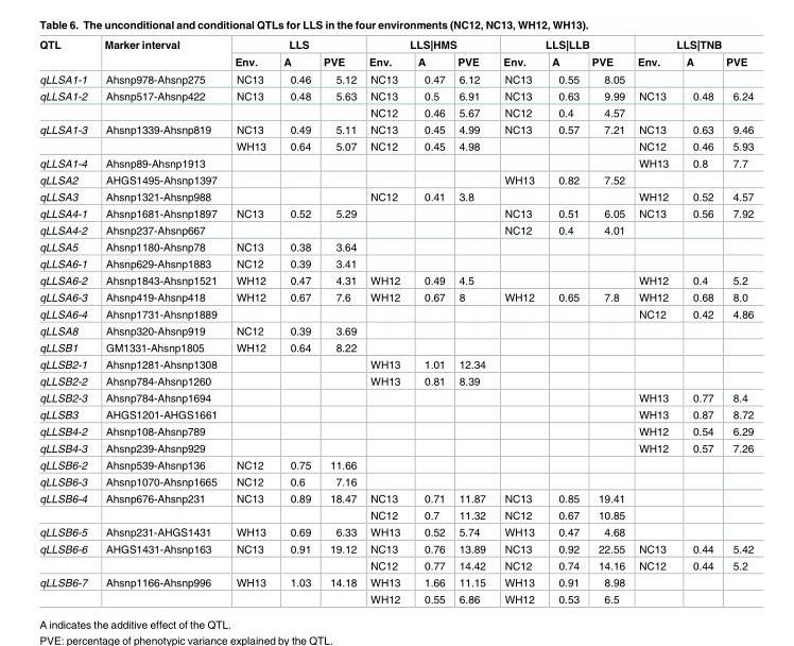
<table><thead><tr><td rowspan="2">QTL</td><td rowspan="2">Marker interval</td><td colspan="3">LLS</td><td colspan="3">LLS|HMS</td><td colspan="3">LLS|LLB</td><td colspan="3">LLS|TNB</td></tr><tr><td>Env.</td><td>A</td><td>PVE</td><td>Env.</td><td>A</td><td>PVE</td><td>Env.</td><td>A</td><td>PVE</td><td>Env.</td><td>A</td><td>PVE</td></tr></thead><tbody><tr><td>qLLSA1-1</td><td>Ahsnp978-Ahsnp275</td><td>NC13</td><td>0.46</td><td>5.12</td><td>NC13</td><td>0.47</td><td>6.12</td><td>NC13</td><td>0.55</td><td>8.05</td><td></td><td></td><td></td></tr><tr><td rowspan="2">qLLSA1-2</td><td>Ahsnp517-Ahsnp422</td><td>NC13</td><td>0.48</td><td>5.63</td><td>NC13</td><td>0.5</td><td>6.91</td><td>NC13</td><td>0.63</td><td>9.99</td><td>NC13</td><td>0.48</td><td>6.24</td></tr><tr><td></td><td></td><td></td><td></td><td>NC12</td><td>0.46</td><td>5.67</td><td>NC12</td><td>0.4</td><td>4.57</td><td></td><td></td><td></td></tr><tr><td rowspan="2">qLLSA1-3</td><td>Ahsnp1339-Ahsnp819</td><td>NC13</td><td>0.49</td><td>5.11</td><td>NC13</td><td>0.45</td><td>4.99</td><td>NC13</td><td>0.57</td><td>7.21</td><td>NC13</td><td>0.63</td><td>9.46</td></tr><tr><td></td><td>WH13</td><td>0.64</td><td>5.07</td><td>NC12</td><td>0.45</td><td>4.98</td><td></td><td></td><td></td><td>NC12</td><td>0.46</td><td>5.93</td></tr><tr><td>qLLSA1-4</td><td>Ahsnp89-Ahsnp1913</td><td></td><td></td><td></td><td></td><td></td><td></td><td></td><td></td><td></td><td>WH13</td><td>0.8</td><td>7.7</td></tr><tr><td>qLLSA2</td><td>AHGS1495-Ahsnp1397</td><td></td><td></td><td></td><td></td><td></td><td></td><td>WH13</td><td>0.82</td><td>7.52</td><td></td><td></td><td></td></tr><tr><td>qLLSA3</td><td>Ahsnp1321-Ahsnp988</td><td></td><td></td><td></td><td>NC12</td><td>0.41</td><td>3.8</td><td></td><td></td><td></td><td>WH12</td><td>0.52</td><td>4.57</td></tr><tr><td>qLLSA4-1</td><td>Ahsnp1681-Ahsnp1897</td><td>NC13</td><td>0.52</td><td>5.29</td><td></td><td></td><td></td><td>NC13</td><td>0.51</td><td>6.05</td><td>NC13</td><td>0.56</td><td>7.92</td></tr><tr><td>qLLSA4-2</td><td>Ahsnp237-Ahsnp667</td><td></td><td></td><td></td><td></td><td></td><td></td><td>NC12</td><td>0.4</td><td>4.01</td><td></td><td></td><td></td></tr><tr><td>qLLSA5</td><td>Ahsnp1180-Ahsnp78</td><td>NC13</td><td>0.38</td><td>3.64</td><td></td><td></td><td></td><td></td><td></td><td></td><td></td><td></td><td></td></tr><tr><td>qLLSA6-1</td><td>Ahsnp629-Ahsnp1883</td><td>NC12</td><td>0.39</td><td>3.41</td><td></td><td></td><td></td><td></td><td></td><td></td><td></td><td></td><td></td></tr><tr><td>qLLSA6-2</td><td>Ahsnp1843-Ahsnp1521</td><td>WH12</td><td>0.47</td><td>4.31</td><td>WH12</td><td>0.49</td><td>4.5</td><td></td><td></td><td></td><td>WH12</td><td>0.4</td><td>5.2</td></tr><tr><td>qLLSA6-3</td><td>Ahsnp419-Ahsnp418</td><td>WH12</td><td>0.67</td><td>7.6</td><td>WH12</td><td>0.67</td><td>8</td><td>WH12</td><td>0.65</td><td>7.8</td><td>WH12</td><td>0.68</td><td>8.0</td></tr><tr><td>qLLSA6-4</td><td>Ahsnp1731-Ahsnp1889</td><td></td><td></td><td></td><td></td><td></td><td></td><td></td><td></td><td></td><td>NC12</td><td>0.42</td><td>4.86</td></tr><tr><td>qLLSA8</td><td>Ahsnp320-Ahsnp919</td><td>NC12</td><td>0.39</td><td>3.69</td><td></td><td></td><td></td><td></td><td></td><td></td><td></td><td></td><td></td></tr><tr><td>qLLSB1</td><td>GM1331-Ahsnp1805</td><td>WH12</td><td>0.64</td><td>8.22</td><td></td><td></td><td></td><td></td><td></td><td></td><td></td><td></td><td></td></tr><tr><td>qLLSB2-1</td><td>Ahsnp1281-Ahsnp1308</td><td></td><td></td><td></td><td>WH13</td><td>1.01</td><td>12.34</td><td></td><td></td><td></td><td></td><td></td><td></td></tr><tr><td>qLLSB2-2</td><td>Ahsnp784-Ahsnp1260</td><td></td><td></td><td></td><td>WH13</td><td>0.81</td><td>8.39</td><td></td><td></td><td></td><td></td><td></td><td></td></tr><tr><td>qLLSB2-3</td><td>Ahsnp784-Ahsnp1694</td><td></td><td></td><td></td><td></td><td></td><td></td><td></td><td></td><td></td><td>WH13</td><td>0.77</td><td>8.4</td></tr><tr><td>qLLSB3</td><td>AHGS1201-AHGS1661</td><td></td><td></td><td></td><td></td><td></td><td></td><td></td><td></td><td></td><td>WH13</td><td>0.87</td><td>8.72</td></tr><tr><td>qLLSB4-2</td><td>Ahsnp108-Ahsnp789</td><td></td><td></td><td></td><td></td><td></td><td></td><td></td><td></td><td></td><td>WH12</td><td>0.54</td><td>6.29</td></tr><tr><td>qLLSB4-3</td><td>Ahsnp239-Ahsnp929</td><td></td><td></td><td></td><td></td><td></td><td></td><td></td><td></td><td></td><td>WH12</td><td>0.57</td><td>7.26</td></tr><tr><td>qLLSB6-2</td><td>Ahsnp539-Ahsnp136</td><td>NC12</td><td>0.75</td><td>11.66</td><td></td><td></td><td></td><td></td><td></td><td></td><td></td><td></td><td></td></tr><tr><td>qLLSB6-3</td><td>Ahsnp1070-Ahsnp1665</td><td>NC12</td><td>0.6</td><td>7.16</td><td></td><td></td><td></td><td></td><td></td><td></td><td></td><td></td><td></td></tr><tr><td rowspan="2">qLLSB6-4</td><td>Ahsnp676-Ahsnp231</td><td>NC13</td><td>0.89</td><td>18.47</td><td>NC13</td><td>0.71</td><td>11.87</td><td>NC13</td><td>0.85</td><td>19.41</td><td></td><td></td><td></td></tr><tr><td></td><td></td><td></td><td></td><td>NC12</td><td>0.7</td><td>11.32</td><td>NC12</td><td>0.67</td><td>10.85</td><td></td><td></td><td></td></tr><tr><td>qLLSB6-5</td><td>Ahsnp231-AHGS1431</td><td>WH13</td><td>0.69</td><td>6.33</td><td>WH13</td><td>0.52</td><td>5.74</td><td>WH13</td><td>0.47</td><td>4.68</td><td></td><td></td><td></td></tr><tr><td rowspan="2">qLLSB6-6</td><td>AHGS1431-Ahsnp163</td><td>NC13</td><td>0.91</td><td>19.12</td><td>NC13</td><td>0.76</td><td>13.89</td><td>NC13</td><td>0.92</td><td>22.55</td><td>NC13</td><td>0.44</td><td>5.42</td></tr><tr><td></td><td></td><td></td><td></td><td>NC12</td><td>0.77</td><td>14.42</td><td>NC12</td><td>0.74</td><td>14.16</td><td>NC12</td><td>0.44</td><td>5.2</td></tr><tr><td rowspan="2">qLLSB6-7</td><td>Ahsnp1166-Ahsnp996</td><td>WH13</td><td>1.03</td><td>14.18</td><td>WH13</td><td>1.66</td><td>11.15</td><td>WH13</td><td>0.91</td><td>8.98</td><td></td><td></td><td></td></tr><tr><td></td><td></td><td></td><td></td><td>WH12</td><td>0.55</td><td>6.86</td><td>WH12</td><td>0.53</td><td>6.5</td><td></td><td></td><td></td></tr></tbody></table>